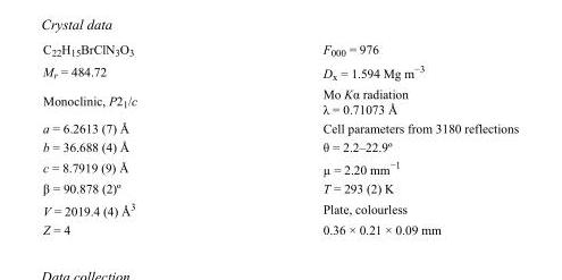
<table><tbody><tr><td>C<sub>22</sub>H<sub>15</sub>BrClN<sub>3</sub>O<sub>3</sub></td><td>F000 = 976</td></tr><tr><td>M<sub>r</sub> = 484.72</td><td>D<sub>x</sub> = 1.594 Mg m<sup>−3</sup></td></tr><tr><td>Monoclinic, P2<sub>1</sub>/c</td><td>Mo Kα radiation λ = 0.71073 Å</td></tr><tr><td>a = 6.2613 (7) Å</td><td>Cell parameters from 3180 reflections</td></tr><tr><td>b = 36.688 (4) Å</td><td>θ = 2.2–22.9º</td></tr><tr><td>c = 8.7919 (9) Å</td><td>µ = 2.20 mm<sup>−1</sup></td></tr><tr><td>β = 90.878 (2)º</td><td>T = 293 (2) K</td></tr><tr><td>V = 2019.4 (4) Å<sup>3</sup></td><td>Plate, colourless</td></tr><tr><td>Z = 4</td><td>0.36 × 0.21 × 0.09 mm</td></tr></tbody></table>